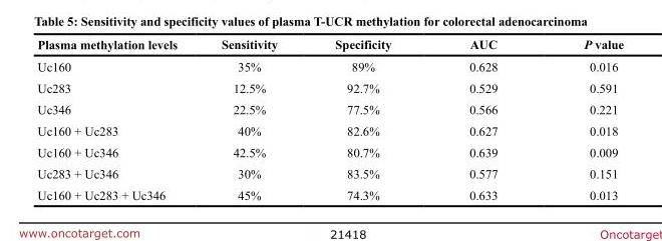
<table><thead><tr><td>Plasma methylation levels</td><td>Sensitivity</td><td>Specificity</td><td>AUC</td><td>P value</td></tr></thead><tbody><tr><td>Uc160</td><td>35%</td><td>89%</td><td>0.628</td><td>0.016</td></tr><tr><td>Uc283</td><td>12.5%</td><td>92.7%</td><td>0.529</td><td>0.591</td></tr><tr><td>Uc346</td><td>22.5%</td><td>77.5%</td><td>0.566</td><td>0.221</td></tr><tr><td>Uc160 + Uc283</td><td>40%</td><td>82.6%</td><td>0.627</td><td>0.018</td></tr><tr><td>Uc160 + Uc346</td><td>42.5%</td><td>80.7%</td><td>0.639</td><td>0.009</td></tr><tr><td>Uc283 + Uc346</td><td>30%</td><td>83.5%</td><td>0.577</td><td>0.151</td></tr><tr><td>Uc160 + Uc283 + Uc346</td><td>45%</td><td>74.3%</td><td>0.633</td><td>0.013</td></tr></tbody></table>